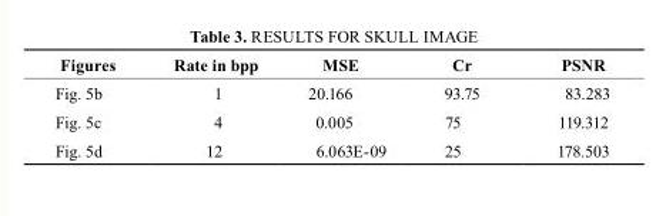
<table><thead><tr><td>Figures</td><td>rate in bpp</td><td>MsE</td><td>cr</td><td>PSNR</td></tr></thead><tbody><tr><td>Fig. 5b</td><td>1</td><td>20.166</td><td>93.75</td><td>83.283</td></tr><tr><td>Fig. 5c</td><td>4</td><td>0.005</td><td>75</td><td>119.312</td></tr><tr><td>Fig. 5d</td><td>12</td><td>6.063E-09</td><td>25</td><td>178.503</td></tr></tbody></table>